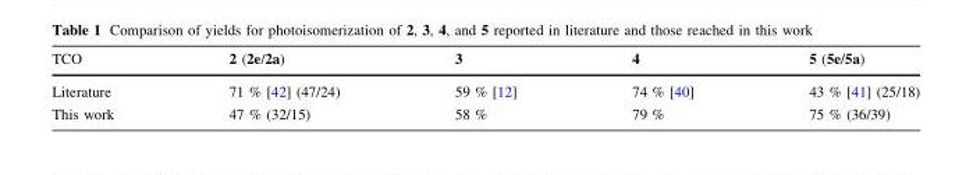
<table><thead><tr><td>TCO</td><td>2 (2e/2a)</td><td>3</td><td>4</td><td>5 (5e/5a)</td></tr></thead><tbody><tr><td>Literature</td><td>71 % [42] (47/24)</td><td>59 % [12]</td><td>74 % [40]</td><td>43 % [41] (25/18)</td></tr><tr><td>This work</td><td>47 % (32/15)</td><td>58 %</td><td>79 %</td><td>75 % (36/39)</td></tr></tbody></table>